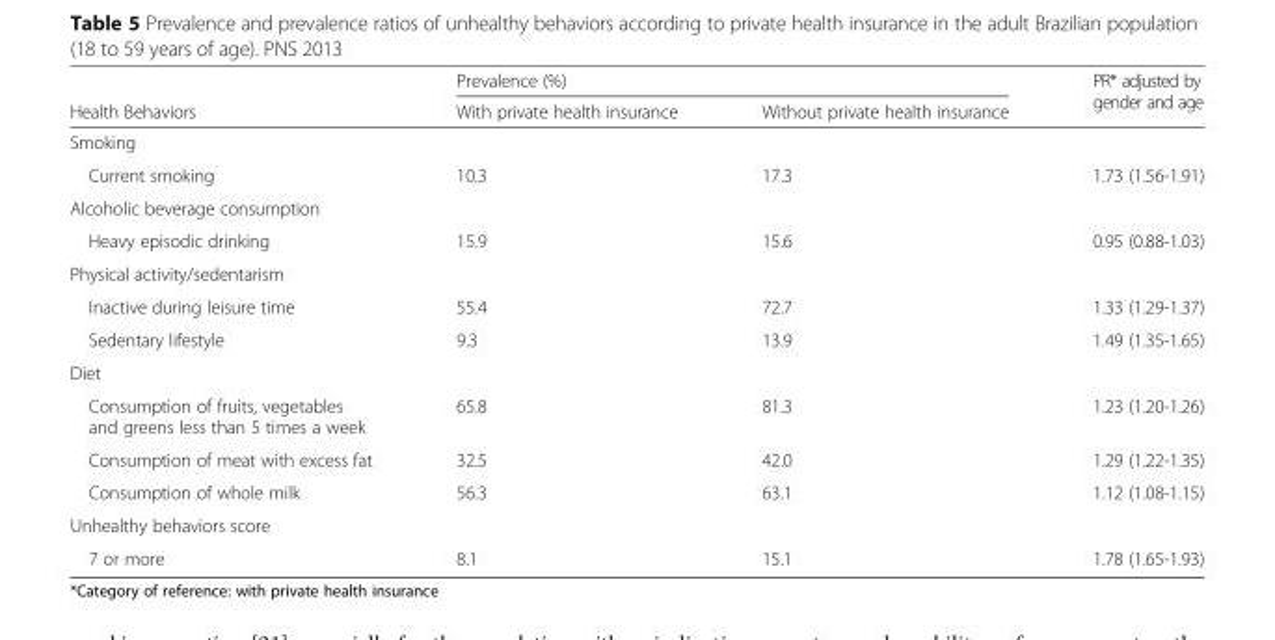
<table><thead><tr><td rowspan="2">Health Behaviors</td><td colspan="2">Prevalence (%)</td><td rowspan="2">PR* adjusted by gender and age</td></tr><tr><td>With private health insurance</td><td>Without private health insurance</td></tr></thead><tbody><tr><td colspan="4">Smoking</td></tr><tr><td>Current smoking</td><td>10.3</td><td>17.3</td><td>1.73 (1.56-1.91)</td></tr><tr><td colspan="4">Alcoholic beverage consumption</td></tr><tr><td>Heavy episodic drinking</td><td>15.9</td><td>15.6</td><td>0.95 (0.88-1.03)</td></tr><tr><td colspan="4">Physical activity/sedentarism</td></tr><tr><td>Inactive during leisure time</td><td>55.4</td><td>72.7</td><td>1.33 (1.29-1.37)</td></tr><tr><td>Sedentary lifestyle</td><td>9.3</td><td>13.9</td><td>1.49 (1.35-1.65)</td></tr><tr><td colspan="4">Diet</td></tr><tr><td>Consumption of fruits, vegetables and greens less than 5 times a week</td><td>65.8</td><td>81.3</td><td>1.23 (1.20-1.26)</td></tr><tr><td>Consumption of meat with excess fat</td><td>32.5</td><td>42.0</td><td>1.29 (1.22-1.35)</td></tr><tr><td>Consumption of whole milk</td><td>56.3</td><td>63.1</td><td>1.12 (1.08-1.15)</td></tr><tr><td colspan="4">Unhealthy behaviors score</td></tr><tr><td>7 or more</td><td>8.1</td><td>15.1</td><td>1.78 (1.65-1.93)</td></tr></tbody></table>